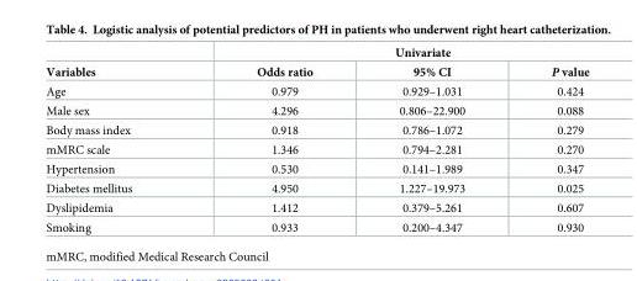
<table><thead><tr><td rowspan="2">Variables</td><td colspan="3">Univariate</td></tr><tr><td>Odds ratio</td><td>95% CI</td><td>P value</td></tr></thead><tbody><tr><td>Age</td><td>0.979</td><td>0.929–1.031</td><td>0.424</td></tr><tr><td>Male sex</td><td>4.296</td><td>0.806–22.900</td><td>0.088</td></tr><tr><td>Body mass index</td><td>0.918</td><td>0.786–1.072</td><td>0.279</td></tr><tr><td>mMRC scale</td><td>1.346</td><td>0.794–2.281</td><td>0.270</td></tr><tr><td>Hypertension</td><td>0.530</td><td>0.141–1.989</td><td>0.347</td></tr><tr><td>Diabetes mellitus</td><td>4.950</td><td>1.227–19.973</td><td>0.025</td></tr><tr><td>Dyslipidemia</td><td>1.412</td><td>0.379–5.261</td><td>0.607</td></tr><tr><td>Smoking</td><td>0.933</td><td>0.200–4.347</td><td>0.930</td></tr></tbody></table>